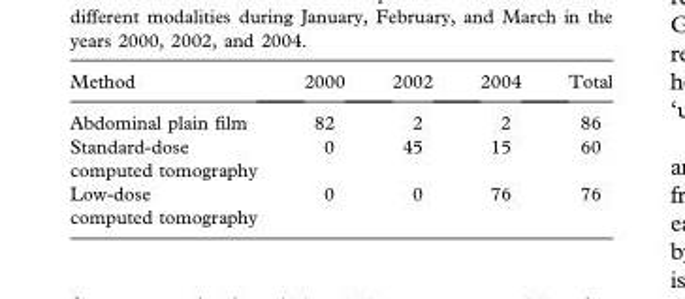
<table><thead><tr><td>Method</td><td>2000</td><td>2002</td><td>2004</td><td>Total</td></tr></thead><tbody><tr><td>Abdominal plain film</td><td>82</td><td>2</td><td>2</td><td>86</td></tr><tr><td>Standard-dose computed tomography</td><td>0</td><td>45</td><td>15</td><td>60</td></tr><tr><td>Low-dose computed tomography</td><td>0</td><td>0</td><td>76</td><td>76</td></tr></tbody></table>